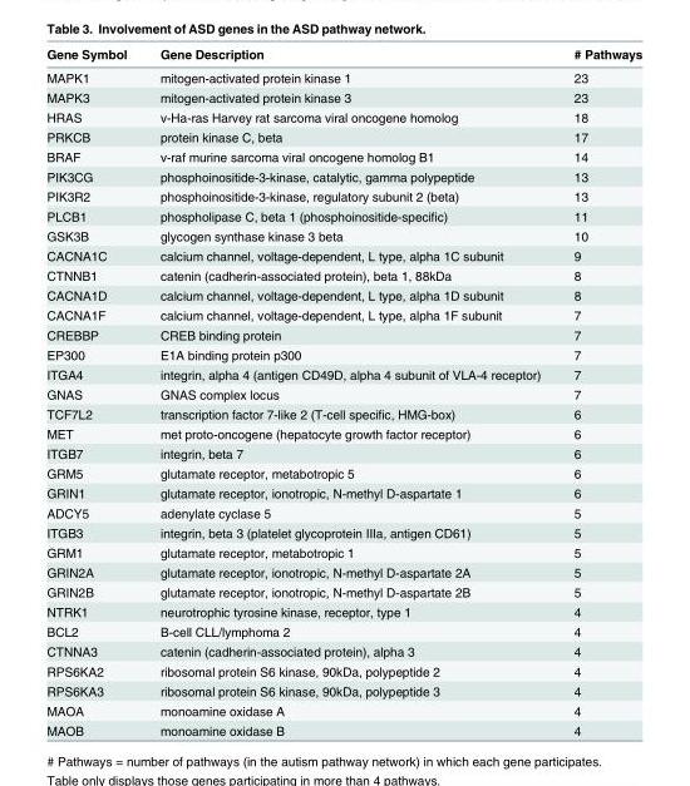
<table><thead><tr><td>Gene Symbol</td><td>Gene Description</td><td># Pathways</td></tr></thead><tbody><tr><td>MAPK1</td><td>mitogen-activated protein kinase 1</td><td>23</td></tr><tr><td>MAPK3</td><td>mitogen-activated protein kinase 3</td><td>23</td></tr><tr><td>HRAS</td><td>v-Ha-ras Harvey rat sarcoma viral oncogene homolog</td><td>18</td></tr><tr><td>PRKCB</td><td>protein kinase C, beta</td><td>17</td></tr><tr><td>BRAF</td><td>v-raf murine sarcoma viral oncogene homolog B1</td><td>14</td></tr><tr><td>PIK3CG</td><td>phosphoinositide-3-kinase, catalytic, gamma polypeptide</td><td>13</td></tr><tr><td>PIK3R2</td><td>phosphoinositide-3-kinase, regulatory subunit 2 (beta)</td><td>13</td></tr><tr><td>PLCB1</td><td>phospholipase C, beta 1 (phosphoinositide-specific)</td><td>11</td></tr><tr><td>GSK3B</td><td>glycogen synthase kinase 3 beta</td><td>10</td></tr><tr><td>CACNA1C</td><td>calcium channel, voltage-dependent, L type, alpha 1C subunit</td><td>9</td></tr><tr><td>CTNNB1</td><td>catenin (cadherin-associated protein), beta 1, 88kDa</td><td>8</td></tr><tr><td>CACNA1D</td><td>calcium channel, voltage-dependent, L type, alpha 1D subunit</td><td>8</td></tr><tr><td>CACNA1F</td><td>calcium channel, voltage-dependent, L type, alpha 1F subunit</td><td>7</td></tr><tr><td>CREBBP</td><td>CREB binding protein</td><td>7</td></tr><tr><td>EP300</td><td>E1A binding protein p300</td><td>7</td></tr><tr><td>ITGA4</td><td>integrin, alpha 4 (antigen CD49D, alpha 4 subunit of VLA-4 receptor)</td><td>7</td></tr><tr><td>GNAS</td><td>GNAS complex locus</td><td>7</td></tr><tr><td>TCF7L2</td><td>transcription factor 7-like 2 (T-cell specific, HMG-box)</td><td>6</td></tr><tr><td>MET</td><td>met proto-oncogene (hepatocyte growth factor receptor)</td><td>6</td></tr><tr><td>ITGB7</td><td>integrin, beta 7</td><td>6</td></tr><tr><td>GRM5</td><td>glutamate receptor, metabotropic 5</td><td>6</td></tr><tr><td>GRIN1</td><td>glutamate receptor, ionotropic, N-methyl D-aspartate 1</td><td>6</td></tr><tr><td>ADCY5</td><td>adenylate cyclase 5</td><td>5</td></tr><tr><td>ITGB3</td><td>integrin, beta 3 (platelet glycoprotein IIIa, antigen CD61)</td><td>5</td></tr><tr><td>GRM1</td><td>glutamate receptor, metabotropic 1</td><td>5</td></tr><tr><td>GRIN2A</td><td>glutamate receptor, ionotropic, N-methyl D-aspartate 2A</td><td>5</td></tr><tr><td>GRIN2B</td><td>glutamate receptor, ionotropic, N-methyl D-aspartate 2B</td><td>5</td></tr><tr><td>NTRK1</td><td>neurotrophic tyrosine kinase, receptor, type 1</td><td>4</td></tr><tr><td>BCL2</td><td>B-cell CLL/lymphoma 2</td><td>4</td></tr><tr><td>CTNNA3</td><td>catenin (cadherin-associated protein), alpha 3</td><td>4</td></tr><tr><td>RPS6KA2</td><td>ribosomal protein S6 kinase, 90kDa, polypeptide 2</td><td>4</td></tr><tr><td>RPS6KA3</td><td>ribosomal protein S6 kinase, 90kDa, polypeptide 3</td><td>4</td></tr><tr><td>MAOA</td><td>monoamine oxidase A</td><td>4</td></tr><tr><td>MAOB</td><td>monoamine oxidase B</td><td>4</td></tr></tbody></table>